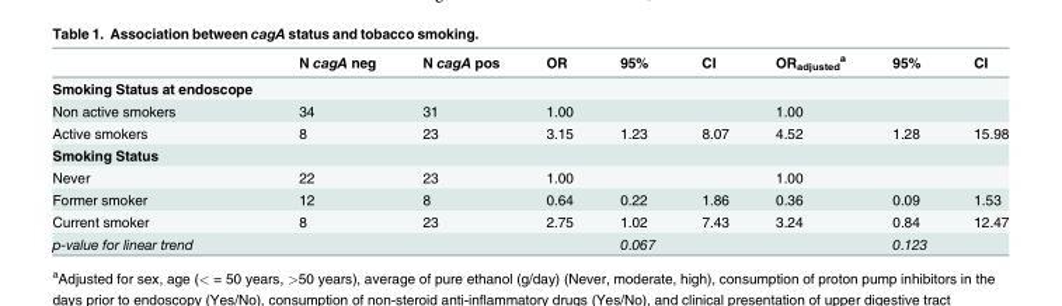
<table><thead><tr><td></td><td>N cagA neg</td><td>N cagA pos</td><td>OR</td><td>95%</td><td>CI</td><td>OR<sub>adjusted</sub> <sup>a</sup></td><td>95%</td><td>CI</td></tr></thead><tbody><tr><td colspan="9">Smoking Status at endoscope</td></tr><tr><td>Non active smokers</td><td>34</td><td>31</td><td>1.00</td><td></td><td></td><td>1.00</td><td></td><td></td></tr><tr><td>Active smokers</td><td>8</td><td>23</td><td>3.15</td><td>1.23</td><td>8.07</td><td>4.52</td><td>1.28</td><td>15.98</td></tr><tr><td colspan="9">Smoking Status</td></tr><tr><td>Never</td><td>22</td><td>23</td><td>1.00</td><td></td><td></td><td>1.00</td><td></td><td></td></tr><tr><td>Former smoker</td><td>12</td><td>8</td><td>0.64</td><td>0.22</td><td>1.86</td><td>0.36</td><td>0.09</td><td>1.53</td></tr><tr><td>Current smoker</td><td>8</td><td>23</td><td>2.75</td><td>1.02</td><td>7.43</td><td>3.24</td><td>0.84</td><td>12.47</td></tr><tr><td>p-value for linear trend</td><td></td><td></td><td></td><td>0.067</td><td></td><td></td><td>0.123</td><td></td></tr></tbody></table>